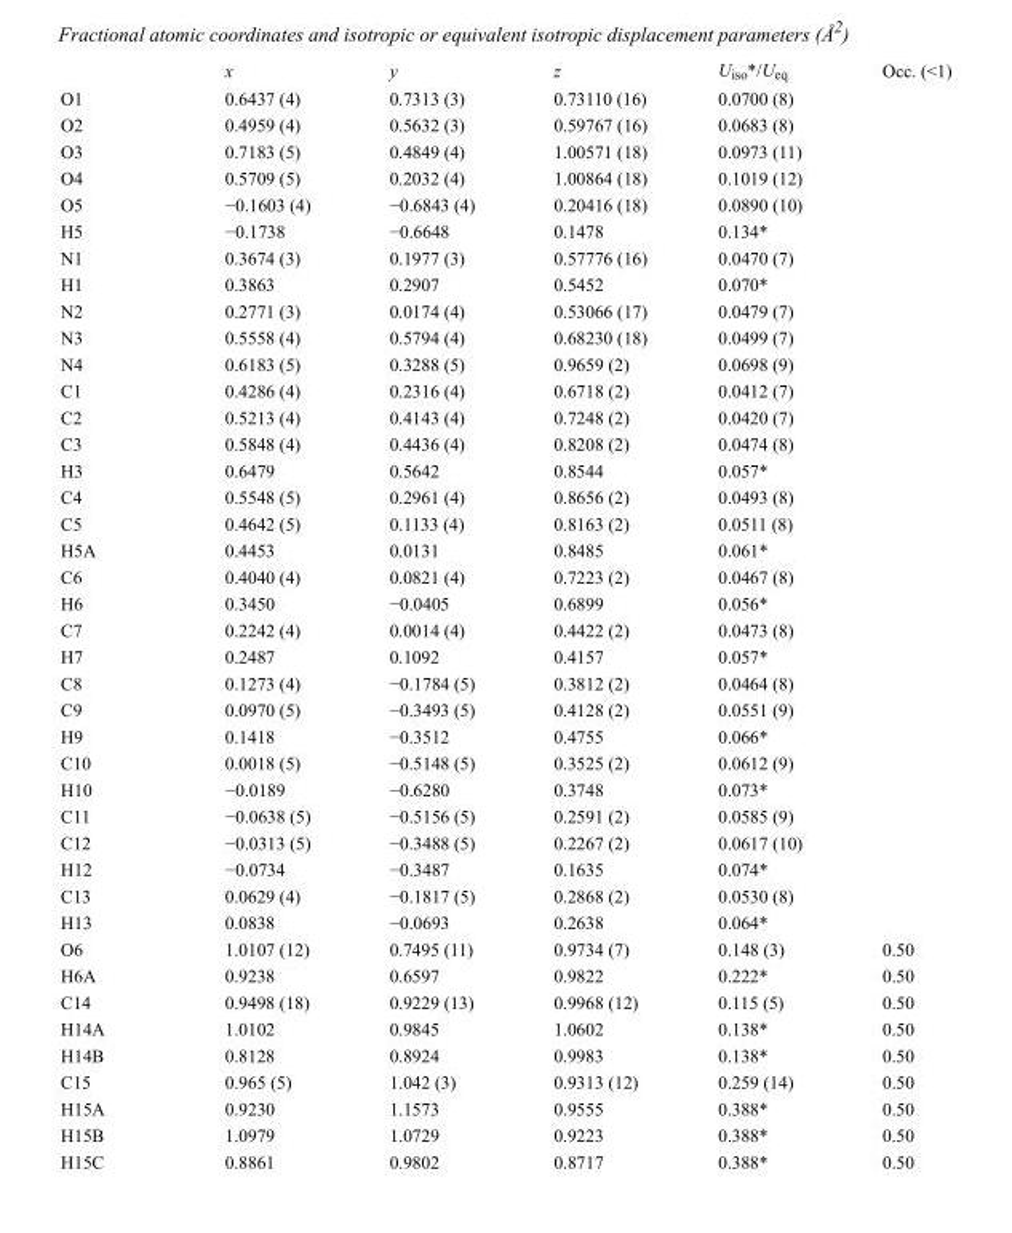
<table><thead><tr><td></td><td>x</td><td>y</td><td>z</td><td>U<sub>iso</sub>*/U<sub>eq</sub></td><td>Occ. (&lt;1)</td></tr></thead><tbody><tr><td>O1</td><td>0.6437 (4)</td><td>0.7313 (3)</td><td>0.73110 (16)</td><td>0.0700 (8)</td><td></td></tr><tr><td>O2</td><td>0.4959 (4)</td><td>0.5632 (3)</td><td>0.59767 (16)</td><td>0.0683 (8)</td><td></td></tr><tr><td>O3</td><td>0.7183 (5)</td><td>0.4849 (4)</td><td>1.00571 (18)</td><td>0.0973 (11)</td><td></td></tr><tr><td>O4</td><td>0.5709 (5)</td><td>0.2032 (4)</td><td>1.00864 (18)</td><td>0.1019 (12)</td><td></td></tr><tr><td>O5</td><td>−0.1603 (4)</td><td>−0.6843 (4)</td><td>0.20416 (18)</td><td>0.0890 (10)</td><td></td></tr><tr><td>H5</td><td>−0.1738</td><td>−0.6648</td><td>0.1478</td><td>0.134*</td><td></td></tr><tr><td>N1</td><td>0.3674 (3)</td><td>0.1977 (3)</td><td>0.57776 (16)</td><td>0.0470 (7)</td><td></td></tr><tr><td>H1</td><td>0.3863</td><td>0.2907</td><td>0.5452</td><td>0.070*</td><td></td></tr><tr><td>N2</td><td>0.2771 (3)</td><td>0.0174 (4)</td><td>0.53066 (17)</td><td>0.0479 (7)</td><td></td></tr><tr><td>N3</td><td>0.5558 (4)</td><td>0.5794 (4)</td><td>0.68230 (18)</td><td>0.0499 (7)</td><td></td></tr><tr><td>N4</td><td>0.6183 (5)</td><td>0.3288 (5)</td><td>0.9659 (2)</td><td>0.0698 (9)</td><td></td></tr><tr><td>C1</td><td>0.4286 (4)</td><td>0.2316 (4)</td><td>0.6718 (2)</td><td>0.0412 (7)</td><td></td></tr><tr><td>C2</td><td>0.5213 (4)</td><td>0.4143 (4)</td><td>0.7248 (2)</td><td>0.0420 (7)</td><td></td></tr><tr><td>C3</td><td>0.5848 (4)</td><td>0.4436 (4)</td><td>0.8208 (2)</td><td>0.0474 (8)</td><td></td></tr><tr><td>H3</td><td>0.6479</td><td>0.5642</td><td>0.8544</td><td>0.057*</td><td></td></tr><tr><td>C4</td><td>0.5548 (5)</td><td>0.2961 (4)</td><td>0.8656 (2)</td><td>0.0493 (8)</td><td></td></tr><tr><td>C5</td><td>0.4642 (5)</td><td>0.1133 (4)</td><td>0.8163 (2)</td><td>0.0511 (8)</td><td></td></tr><tr><td>H5A</td><td>0.4453</td><td>0.0131</td><td>0.8485</td><td>0.061*</td><td></td></tr><tr><td>C6</td><td>0.4040 (4)</td><td>0.0821 (4)</td><td>0.7223 (2)</td><td>0.0467 (8)</td><td></td></tr><tr><td>H6</td><td>0.3450</td><td>−0.0405</td><td>0.6899</td><td>0.056*</td><td></td></tr><tr><td>C7</td><td>0.2242 (4)</td><td>0.0014 (4)</td><td>0.4422 (2)</td><td>0.0473 (8)</td><td></td></tr><tr><td>H7</td><td>0.2487</td><td>0.1092</td><td>0.4157</td><td>0.057*</td><td></td></tr><tr><td>C8</td><td>0.1273 (4)</td><td>−0.1784 (5)</td><td>0.3812 (2)</td><td>0.0464 (8)</td><td></td></tr><tr><td>C9</td><td>0.0970 (5)</td><td>−0.3493 (5)</td><td>0.4128 (2)</td><td>0.0551 (9)</td><td></td></tr><tr><td>H9</td><td>0.1418</td><td>−0.3512</td><td>0.4755</td><td>0.066*</td><td></td></tr><tr><td>C10</td><td>0.0018 (5)</td><td>−0.5148 (5)</td><td>0.3525 (2)</td><td>0.0612 (9)</td><td></td></tr><tr><td>H10</td><td>−0.0189</td><td>−0.6280</td><td>0.3748</td><td>0.073*</td><td></td></tr><tr><td>C11</td><td>−0.0638 (5)</td><td>−0.5156 (5)</td><td>0.2591 (2)</td><td>0.0585 (9)</td><td></td></tr><tr><td>C12</td><td>−0.0313 (5)</td><td>−0.3488 (5)</td><td>0.2267 (2)</td><td>0.0617 (10)</td><td></td></tr><tr><td>H12</td><td>−0.0734</td><td>−0.3487</td><td>0.1635</td><td>0.074*</td><td></td></tr><tr><td>C13</td><td>0.0629 (4)</td><td>−0.1817 (5)</td><td>0.2868 (2)</td><td>0.0530 (8)</td><td></td></tr><tr><td>H13</td><td>0.0838</td><td>−0.0693</td><td>0.2638</td><td>0.064*</td><td></td></tr><tr><td>O6</td><td>1.0107 (12)</td><td>0.7495 (11)</td><td>0.9734 (7)</td><td>0.148 (3)</td><td>0.50</td></tr><tr><td>H6A</td><td>0.9238</td><td>0.6597</td><td>0.9822</td><td>0.222*</td><td>0.50</td></tr><tr><td>C14</td><td>0.9498 (18)</td><td>0.9229 (13)</td><td>0.9968 (12)</td><td>0.115 (5)</td><td>0.50</td></tr><tr><td>H14A</td><td>1.0102</td><td>0.9845</td><td>1.0602</td><td>0.138*</td><td>0.50</td></tr><tr><td>H14B</td><td>0.8128</td><td>0.8924</td><td>0.9983</td><td>0.138*</td><td>0.50</td></tr><tr><td>C15</td><td>0.965 (5)</td><td>1.042 (3)</td><td>0.9313 (12)</td><td>0.259 (14)</td><td>0.50</td></tr><tr><td>H15A</td><td>0.9230</td><td>1.1573</td><td>0.9555</td><td>0.388*</td><td>0.50</td></tr><tr><td>H15B</td><td>1.0979</td><td>1.0729</td><td>0.9223</td><td>0.388*</td><td>0.50</td></tr><tr><td>H15C</td><td>0.8861</td><td>0.9802</td><td>0.8717</td><td>0.388*</td><td>0.50</td></tr></tbody></table>